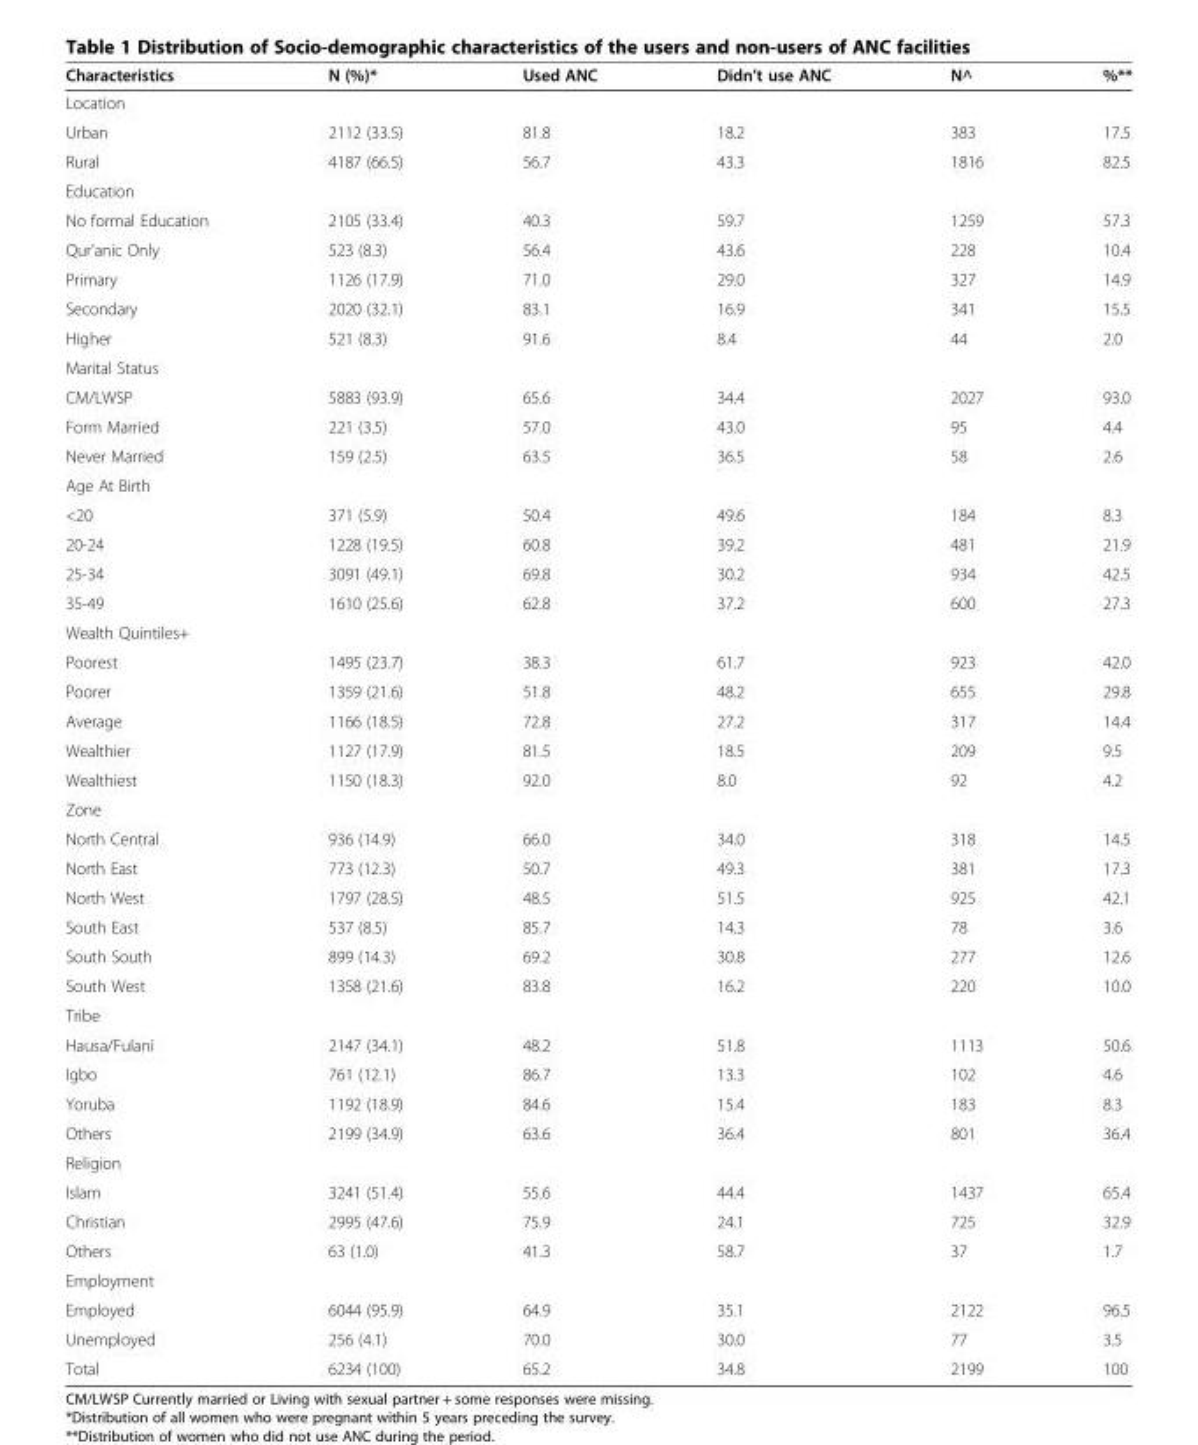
<table><thead><tr><td>Characteristics</td><td>N (%)*</td><td>Used ANC</td><td>Didn’t use ANC</td><td>N^</td><td>%**</td></tr></thead><tbody><tr><td colspan="6">Location</td></tr><tr><td>Urban</td><td>2112 (33.5)</td><td>81.8</td><td>18.2</td><td>383</td><td>17.5</td></tr><tr><td>Rural</td><td>4187 (66.5)</td><td>56.7</td><td>43.3</td><td>1816</td><td>82.5</td></tr><tr><td colspan="6">Education</td></tr><tr><td>No formal Education</td><td>2105 (33.4)</td><td>40.3</td><td>59.7</td><td>1259</td><td>57.3</td></tr><tr><td>Qur’anic Only</td><td>523 (8.3)</td><td>56.4</td><td>43.6</td><td>228</td><td>10.4</td></tr><tr><td>Primary</td><td>1126 (17.9)</td><td>71.0</td><td>29.0</td><td>327</td><td>14.9</td></tr><tr><td>Secondary</td><td>2020 (32.1)</td><td>83.1</td><td>16.9</td><td>341</td><td>15.5</td></tr><tr><td>Higher</td><td>521 (8.3)</td><td>91.6</td><td>8.4</td><td>44</td><td>2.0</td></tr><tr><td colspan="6">Marital Status</td></tr><tr><td>CM/LWSP</td><td>5883 (93.9)</td><td>65.6</td><td>34.4</td><td>2027</td><td>93.0</td></tr><tr><td>Form Married</td><td>221 (3.5)</td><td>57.0</td><td>43.0</td><td>95</td><td>4.4</td></tr><tr><td>Never Married</td><td>159 (2.5)</td><td>63.5</td><td>36.5</td><td>58</td><td>2.6</td></tr><tr><td colspan="6">Age At Birth</td></tr><tr><td>&lt;20</td><td>371 (5.9)</td><td>50.4</td><td>49.6</td><td>184</td><td>8.3</td></tr><tr><td>20-24</td><td>1228 (19.5)</td><td>60.8</td><td>39.2</td><td>481</td><td>21.9</td></tr><tr><td>25-34</td><td>3091 (49.1)</td><td>69.8</td><td>30.2</td><td>934</td><td>42.5</td></tr><tr><td>35-49</td><td>1610 (25.6)</td><td>62.8</td><td>37.2</td><td>600</td><td>27.3</td></tr><tr><td colspan="6">Wealth Quintiles+</td></tr><tr><td>Poorest</td><td>1495 (23.7)</td><td>38.3</td><td>61.7</td><td>923</td><td>42.0</td></tr><tr><td>Poorer</td><td>1359 (21.6)</td><td>51.8</td><td>48.2</td><td>655</td><td>29.8</td></tr><tr><td>Average</td><td>1166 (18.5)</td><td>72.8</td><td>27.2</td><td>317</td><td>14.4</td></tr><tr><td>Wealthier</td><td>1127 (17.9)</td><td>81.5</td><td>18.5</td><td>209</td><td>9.5</td></tr><tr><td>Wealthiest</td><td>1150 (18.3)</td><td>92.0</td><td>8.0</td><td>92</td><td>4.2</td></tr><tr><td colspan="6">Zone</td></tr><tr><td>North Central</td><td>936 (14.9)</td><td>66.0</td><td>34.0</td><td>318</td><td>14.5</td></tr><tr><td>North East</td><td>773 (12.3)</td><td>50.7</td><td>49.3</td><td>381</td><td>17.3</td></tr><tr><td>North West</td><td>1797 (28.5)</td><td>48.5</td><td>51.5</td><td>925</td><td>42.1</td></tr><tr><td>South East</td><td>537 (8.5)</td><td>85.7</td><td>14.3</td><td>78</td><td>3.6</td></tr><tr><td>South South</td><td>899 (14.3)</td><td>69.2</td><td>30.8</td><td>277</td><td>12.6</td></tr><tr><td>South West</td><td>1358 (21.6)</td><td>83.8</td><td>16.2</td><td>220</td><td>10.0</td></tr><tr><td colspan="6">Tribe</td></tr><tr><td>Hausa/Fulani</td><td>2147 (34.1)</td><td>48.2</td><td>51.8</td><td>1113</td><td>50.6</td></tr><tr><td>Igbo</td><td>761 (12.1)</td><td>86.7</td><td>13.3</td><td>102</td><td>4.6</td></tr><tr><td>Yoruba</td><td>1192 (18.9)</td><td>84.6</td><td>15.4</td><td>183</td><td>8.3</td></tr><tr><td>Others</td><td>2199 (34.9)</td><td>63.6</td><td>36.4</td><td>801</td><td>36.4</td></tr><tr><td colspan="6">Religion</td></tr><tr><td>Islam</td><td>3241 (51.4)</td><td>55.6</td><td>44.4</td><td>1437</td><td>65.4</td></tr><tr><td>Christian</td><td>2995 (47.6)</td><td>75.9</td><td>24.1</td><td>725</td><td>32.9</td></tr><tr><td>Others</td><td>63 (1.0)</td><td>41.3</td><td>58.7</td><td>37</td><td>1.7</td></tr><tr><td colspan="6">Employment</td></tr><tr><td>Employed</td><td>6044 (95.9)</td><td>64.9</td><td>35.1</td><td>2122</td><td>96.5</td></tr><tr><td>Unemployed</td><td>256 (4.1)</td><td>70.0</td><td>30.0</td><td>77</td><td>3.5</td></tr><tr><td>Total</td><td>6234 (100)</td><td>65.2</td><td>34.8</td><td>2199</td><td>100</td></tr></tbody></table>